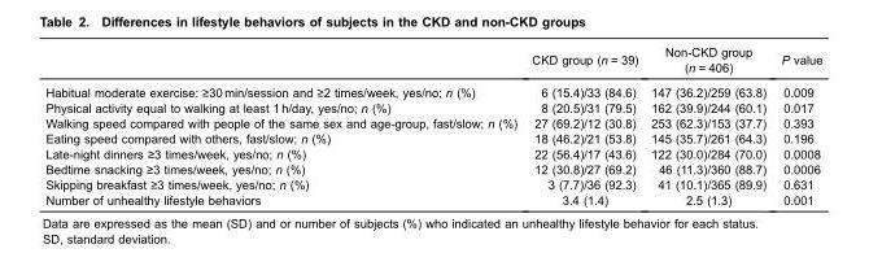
<table><thead><tr><td></td><td>CKD group (n = 39)</td><td>Non-CKD group (n = 406)</td><td>P value</td></tr></thead><tbody><tr><td>Habitual moderate exercise: ≥30 min/session and ≥2 times/week, yes/no; n (%)</td><td>6 (15.4)/33 (84.6)</td><td>147 (36.2)/259 (63.8)</td><td>0.009</td></tr><tr><td>Physical activity equal to walking at least 1 h/day, yes/no; n (%)</td><td>8 (20.5)/31 (79.5)</td><td>162 (39.9)/244 (60.1)</td><td>0.017</td></tr><tr><td>Walking speed compared with people of the same sex and age-group, fast/slow; n (%)</td><td>27 (69.2)/12 (30.8)</td><td>253 (62.3)/153 (37.7)</td><td>0.393</td></tr><tr><td>Eating speed compared with others, fast/slow; n (%)</td><td>18 (46.2)/21 (53.8)</td><td>145 (35.7)/261 (64.3)</td><td>0.196</td></tr><tr><td>Late-night dinners ≥3 times/week, yes/no; n (%)</td><td>22 (56.4)/17 (43.6)</td><td>122 (30.0)/284 (70.0)</td><td>0.0008</td></tr><tr><td>Bedtime snacking ≥3 times/week, yes/no; n (%)</td><td>12 (30.8)/27 (69.2)</td><td>46 (11.3)/360 (88.7)</td><td>0.0006</td></tr><tr><td>Skipping breakfast ≥3 times/week, yes/no; n (%)</td><td>3 (7.7)/36 (92.3)</td><td>41 (10.1)/365 (89.9)</td><td>0.631</td></tr><tr><td>Number of unhealthy lifestyle behaviors</td><td>3.4 (1.4)</td><td>2.5 (1.3)</td><td>0.001</td></tr></tbody></table>